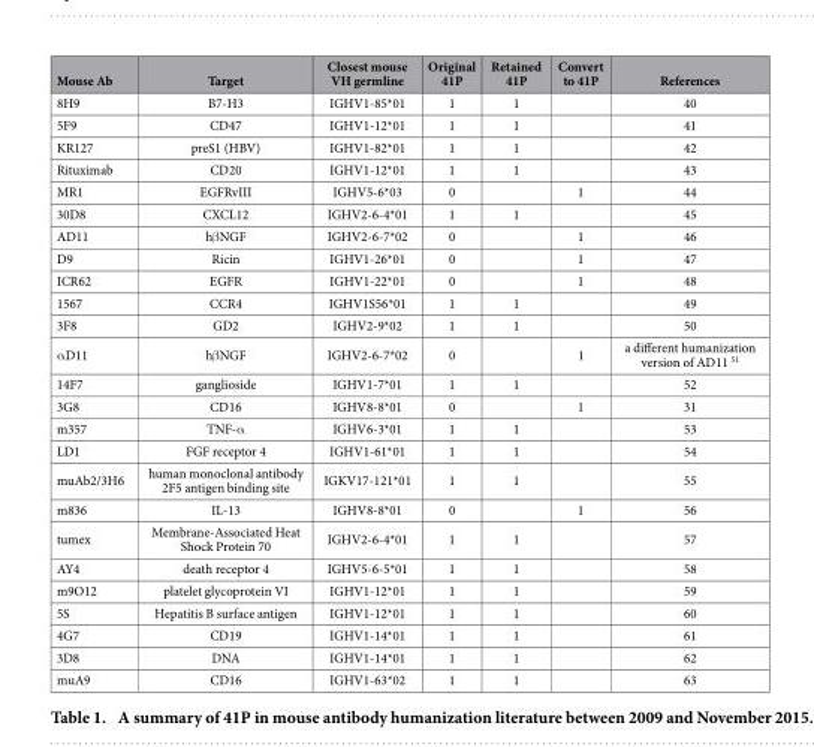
<table><thead><tr><td>Mouse Ab</td><td>Target</td><td>Closest mouse VH germline</td><td>Original 41P</td><td>Retained 41P</td><td>Convert to 41P</td><td>References</td></tr></thead><tbody><tr><td>8H9</td><td>B7-H3</td><td>IGHV1-85*01</td><td>1</td><td>1</td><td></td><td>40</td></tr><tr><td>5F9</td><td>CD47</td><td>IGHV1-12*01</td><td>1</td><td>1</td><td></td><td>41</td></tr><tr><td>KR127</td><td>preS1 (HBV)</td><td>IGHV1-82*01</td><td>1</td><td>1</td><td></td><td>42</td></tr><tr><td>Rituximab</td><td>CD20</td><td>IGHV1-12*01</td><td>1</td><td>1</td><td></td><td>43</td></tr><tr><td>MR1</td><td>EGFRvIII</td><td>IGHV5-6*03</td><td>0</td><td></td><td>1</td><td>44</td></tr><tr><td>30D8</td><td>CXCL12</td><td>IGHV2-6-4*01</td><td>1</td><td>1</td><td></td><td>45</td></tr><tr><td>AD11</td><td>hβ NGF</td><td>IGHV2-6-7*02</td><td>0</td><td></td><td>1</td><td>46</td></tr><tr><td>D9</td><td>Ricin</td><td>IGHV1-26*01</td><td>0</td><td></td><td>1</td><td>47</td></tr><tr><td>ICR62</td><td>EGFR</td><td>IGHV1-22*01</td><td>0</td><td></td><td>1</td><td>48</td></tr><tr><td>1567</td><td>CCR4</td><td>IGHV1S56*01</td><td>1</td><td>1</td><td></td><td>49</td></tr><tr><td>3F8</td><td>GD2</td><td>IGHV2-9*02</td><td>1</td><td>1</td><td></td><td>50</td></tr><tr><td>α D11</td><td>hβ NGF</td><td>IGHV2-6-7*02</td><td>0</td><td></td><td>1</td><td>a different humanization version of AD11 51</td></tr><tr><td>14F7</td><td>ganglioside</td><td>IGHV1-7*01</td><td>1</td><td>1</td><td></td><td>52</td></tr><tr><td>3G8</td><td>CD16</td><td>IGHV8-8*01</td><td>0</td><td></td><td>1</td><td>31</td></tr><tr><td>m357</td><td>TNF-α</td><td>IGHV6-3*01</td><td>1</td><td>1</td><td></td><td>53</td></tr><tr><td>LD1</td><td>FGF receptor 4</td><td>IGHV1-61*01</td><td>1</td><td>1</td><td></td><td>54</td></tr><tr><td>muAb2/3H6</td><td>human monoclonal antibody 2F5 antigen binding site</td><td>IGKV17-121*01</td><td>1</td><td>1</td><td></td><td>55</td></tr><tr><td>m836</td><td>IL-13</td><td>IGHV8-8*01</td><td>0</td><td></td><td>1</td><td>56</td></tr><tr><td>tumex</td><td>Membrane-Associated Heat Shock Protein 70</td><td>IGHV2-6-4*01</td><td>1</td><td>1</td><td></td><td>57</td></tr><tr><td>AY4</td><td>death receptor 4</td><td>IGHV5-6-5*01</td><td>1</td><td>1</td><td></td><td>58</td></tr><tr><td>m9O12</td><td>platelet glycoprotein VI</td><td>IGHV1-12*01</td><td>1</td><td>1</td><td></td><td>59</td></tr><tr><td>5S</td><td>Hepatitis B surface antigen</td><td>IGHV1-12*01</td><td>1</td><td>1</td><td></td><td>60</td></tr><tr><td>4G7</td><td>CD19</td><td>IGHV1-14*01</td><td>1</td><td>1</td><td></td><td>61</td></tr><tr><td>3D8</td><td>DNA</td><td>IGHV1-14*01</td><td>1</td><td>1</td><td></td><td>62</td></tr><tr><td>muA9</td><td>CD16</td><td>IGHV1-63*02</td><td>1</td><td>1</td><td></td><td>63</td></tr></tbody></table>